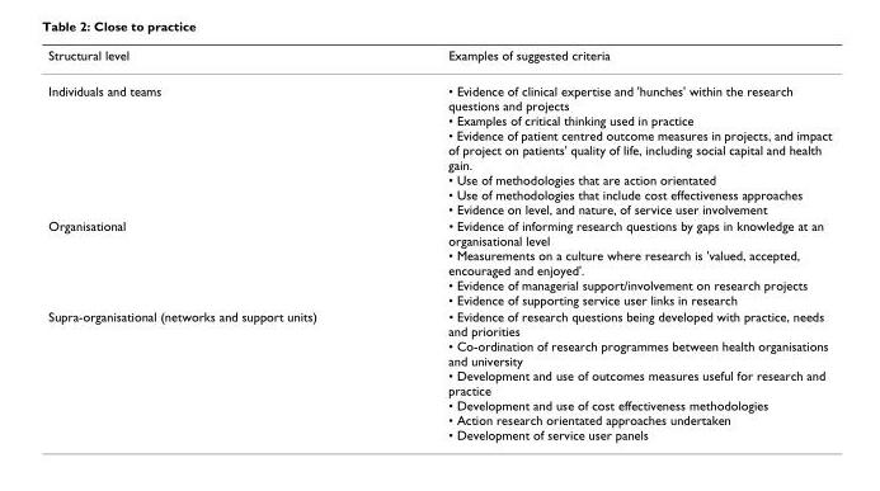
<table><thead><tr><td>Structural level</td><td>Examples of suggested criteria</td></tr></thead><tbody><tr><td>Individuals and teams</td><td>• Evidence of clinical expertise and &#x27;hunches&#x27; within the research questions and projects • Examples of critical thinking used in practice • Evidence of patient centred outcome measures in projects, and impact of project on patients&#x27; quality of life, including social capital and health gain. • Use of methodologies that are action orientated • Use of methodologies that include cost effectiveness approaches • Evidence on level, and nature, of service user involvement</td></tr><tr><td>Organisational</td><td>• Evidence of informing research questions by gaps in knowledge at an organisational level • Measurements on a culture where research is &#x27;valued, accepted, encouraged and enjoyed&#x27;. • Evidence of managerial support/involvement on research projects • Evidence of supporting service user links in research</td></tr><tr><td>Supra-organisational (networks and support units)</td><td>• Evidence of research questions being developed with practice, needs and priorities • Co-ordination of research programmes between health organisations and university • Development and use of outcomes measures useful for research and practice • Development and use of cost effectiveness methodologies • Action research orientated approaches undertaken • Development of service user panels</td></tr></tbody></table>